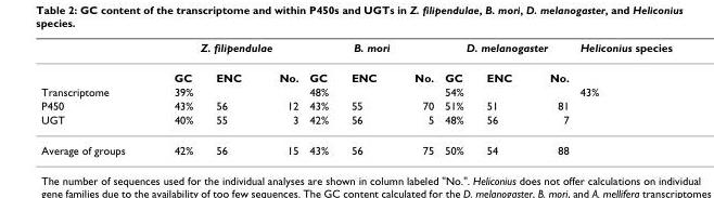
<table><thead><tr><td rowspan="2"></td><td colspan="3">Z. filipendulae</td><td colspan="3">B. mori</td><td colspan="3">D. melanogaster</td><td rowspan="2">Heliconius species</td></tr><tr><td>GC</td><td>ENC</td><td>No.</td><td>GC</td><td>ENC</td><td>No.</td><td>GC</td><td>ENC</td><td>No.</td></tr></thead><tbody><tr><td>Transcriptome</td><td>39%</td><td></td><td></td><td>48%</td><td></td><td></td><td>54%</td><td></td><td></td><td>43%</td></tr><tr><td>P450</td><td>43%</td><td>56</td><td>12</td><td>43%</td><td>55</td><td>70</td><td>51%</td><td>51</td><td>81</td><td></td></tr><tr><td>UGT</td><td>40%</td><td>55</td><td>3</td><td>42%</td><td>56</td><td>5</td><td>48%</td><td>56</td><td>7</td><td></td></tr><tr><td>Average of groups</td><td>42%</td><td>56</td><td>15</td><td>43%</td><td>56</td><td>75</td><td>50%</td><td>54</td><td>88</td><td></td></tr></tbody></table>